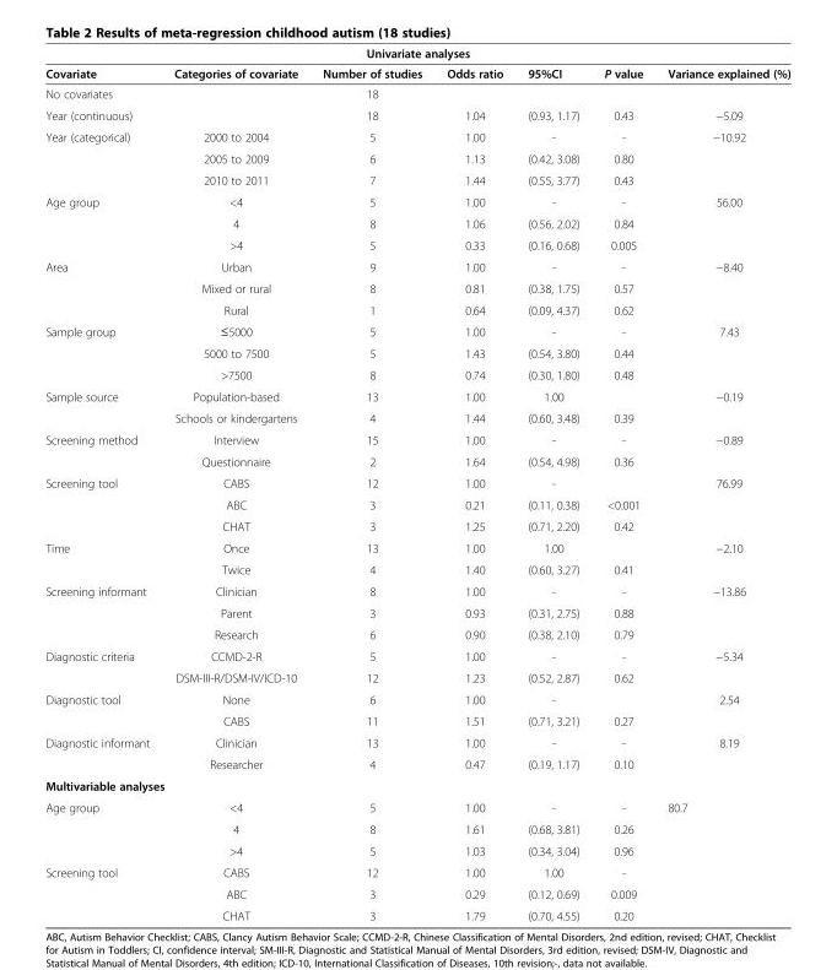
<table><thead><tr><td colspan="7">Univariate analyses</td></tr><tr><td>Covariate</td><td>Categories of covariate</td><td>Number of studies</td><td>Odds ratio</td><td>95%CI</td><td>P value</td><td>Variance explained (%)</td></tr></thead><tbody><tr><td>No covariates</td><td></td><td>18</td><td></td><td></td><td></td><td></td></tr><tr><td>Year (continuous)</td><td></td><td>18</td><td>1.04</td><td>(0.93, 1.17)</td><td>0.43</td><td>−5.09</td></tr><tr><td rowspan="3">Year (categorical)</td><td>2000 to 2004</td><td>5</td><td>1.00</td><td>-</td><td>-</td><td>−10.92</td></tr><tr><td>2005 to 2009</td><td>6</td><td>1.13</td><td>(0.42, 3.08)</td><td>0.80</td><td></td></tr><tr><td>2010 to 2011</td><td>7</td><td>1.44</td><td>(0.55, 3.77)</td><td>0.43</td><td></td></tr><tr><td rowspan="3">Age group</td><td>&lt;4</td><td>5</td><td>1.00</td><td>-</td><td>-</td><td>56.00</td></tr><tr><td>4</td><td>8</td><td>1.06</td><td>(0.56, 2.02)</td><td>0.84</td><td></td></tr><tr><td>&gt;4</td><td>5</td><td>0.33</td><td>(0.16, 0.68)</td><td>0.005</td><td></td></tr><tr><td rowspan="3">Area</td><td>Urban</td><td>9</td><td>1.00</td><td>-</td><td>-</td><td>−8.40</td></tr><tr><td>Mixed or rural</td><td>8</td><td>0.81</td><td>(0.38, 1.75)</td><td>0.57</td><td></td></tr><tr><td>Rural</td><td>1</td><td>0.64</td><td>(0.09, 4.37)</td><td>0.62</td><td></td></tr><tr><td rowspan="3">Sample group</td><td>≤5000</td><td>5</td><td>1.00</td><td>-</td><td>-</td><td>7.43</td></tr><tr><td>5000 to 7500</td><td>5</td><td>1.43</td><td>(0.54, 3.80)</td><td>0.44</td><td></td></tr><tr><td>&gt;7500</td><td>8</td><td>0.74</td><td>(0.30, 1.80)</td><td>0.48</td><td></td></tr><tr><td rowspan="2">Sample source</td><td>Population-based</td><td>13</td><td>1.00</td><td>1.00</td><td></td><td>−0.19</td></tr><tr><td>Schools or kindergartens</td><td>4</td><td>1.44</td><td>(0.60, 3.48)</td><td>0.39</td><td></td></tr><tr><td rowspan="2">Screening method</td><td>Interview</td><td>15</td><td>1.00</td><td>-</td><td>-</td><td>−0.89</td></tr><tr><td>Questionnaire</td><td>2</td><td>1.64</td><td>(0.54, 4.98)</td><td>0.36</td><td></td></tr><tr><td rowspan="3">Screening tool</td><td>CABS</td><td>12</td><td>1.00</td><td>-</td><td></td><td>76.99</td></tr><tr><td>ABC</td><td>3</td><td>0.21</td><td>(0.11, 0.38)</td><td>&lt;0.001</td><td></td></tr><tr><td>CHAT</td><td>3</td><td>1.25</td><td>(0.71, 2.20)</td><td>0.42</td><td></td></tr><tr><td rowspan="2">Time</td><td>Once</td><td>13</td><td>1.00</td><td>1.00</td><td></td><td>−2.10</td></tr><tr><td>Twice</td><td>4</td><td>1.40</td><td>(0.60, 3.27)</td><td>0.41</td><td></td></tr><tr><td rowspan="3">Screening informant</td><td>Clinician</td><td>8</td><td>1.00</td><td>-</td><td>-</td><td>−13.86</td></tr><tr><td>Parent</td><td>3</td><td>0.93</td><td>(0.31, 2.75)</td><td>0.88</td><td></td></tr><tr><td>Research</td><td>6</td><td>0.90</td><td>(0.38, 2.10)</td><td>0.79</td><td></td></tr><tr><td rowspan="2">Diagnostic criteria</td><td>CCMD-2-R</td><td>5</td><td>1.00</td><td>-</td><td>-</td><td>−5.34</td></tr><tr><td>DSM-III-R/DSM-IV/ICD-10</td><td>12</td><td>1.23</td><td>(0.52, 2.87)</td><td>0.62</td><td></td></tr><tr><td rowspan="2">Diagnostic tool</td><td>None</td><td>6</td><td>1.00</td><td>-</td><td></td><td>2.54</td></tr><tr><td>CABS</td><td>11</td><td>1.51</td><td>(0.71, 3.21)</td><td>0.27</td><td></td></tr><tr><td rowspan="2">Diagnostic informant</td><td>Clinician</td><td>13</td><td>1.00</td><td>-</td><td>-</td><td>8.19</td></tr><tr><td>Researcher</td><td>4</td><td>0.47</td><td>(0.19, 1.17)</td><td>0.10</td><td></td></tr><tr><td colspan="7">Multivariable analyses</td></tr><tr><td rowspan="3">Age group</td><td>&lt;4</td><td>5</td><td>1.00</td><td>-</td><td>-</td><td rowspan="5">80.7</td></tr><tr><td>4</td><td>8</td><td>1.61</td><td>(0.68, 3.81)</td><td>0.26</td></tr><tr><td>&gt;4</td><td>5</td><td>1.03</td><td>(0.34, 3.04)</td><td>0.96</td></tr><tr><td rowspan="3">Screening tool</td><td>CABS</td><td>12</td><td>1.00</td><td>1.00</td><td>-</td></tr><tr><td>ABC</td><td>3</td><td>0.29</td><td>(0.12, 0.69)</td><td>0.009</td></tr><tr><td>CHAT</td><td>3</td><td>1.79</td><td>(0.70, 4.55)</td><td>0.20</td><td></td></tr></tbody></table>